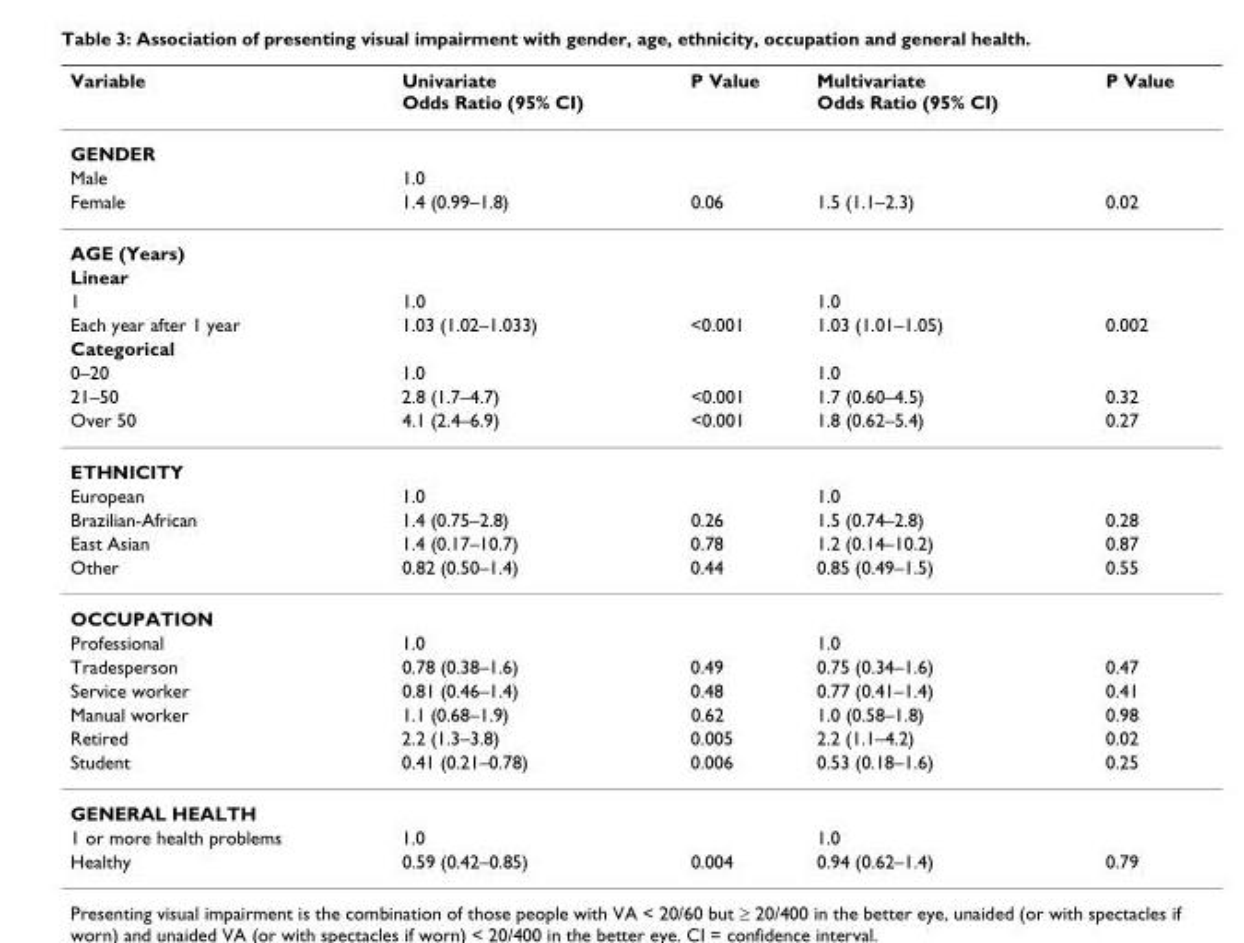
<table><thead><tr><td>Variable</td><td>Univariate Odds Ratio (95% CI)</td><td>P Value</td><td>Multivariate Odds Ratio (95% CI)</td><td>P Value</td></tr></thead><tbody><tr><td colspan="5">GENDER</td></tr><tr><td>Male</td><td>1.0</td><td></td><td></td><td></td></tr><tr><td>Female</td><td>1.4 (0.99–1.8)</td><td>0.06</td><td>1.5 (1.1–2.3)</td><td>0.02</td></tr><tr><td colspan="5">AGE (Years)</td></tr><tr><td colspan="5">Linear</td></tr><tr><td>1</td><td>1.0</td><td></td><td>1.0</td><td></td></tr><tr><td>Each year after 1 year</td><td>1.03 (1.02–1.033)</td><td>&lt;0.001</td><td>1.03 (1.01–1.05)</td><td>0.002</td></tr><tr><td colspan="5">Categorical</td></tr><tr><td>0–20</td><td>1.0</td><td></td><td>1.0</td><td></td></tr><tr><td>21–50</td><td>2.8 (1.7–4.7)</td><td>&lt;0.001</td><td>1.7 (0.60–4.5)</td><td>0.32</td></tr><tr><td>Over 50</td><td>4.1 (2.4–6.9)</td><td>&lt;0.001</td><td>1.8 (0.62–5.4)</td><td>0.27</td></tr><tr><td colspan="5">ETHNICITY</td></tr><tr><td>European</td><td>1.0</td><td></td><td>1.0</td><td></td></tr><tr><td>Brazilian-African</td><td>1.4 (0.75–2.8)</td><td>0.26</td><td>1.5 (0.74–2.8)</td><td>0.28</td></tr><tr><td>East Asian</td><td>1.4 (0.17–10.7)</td><td>0.78</td><td>1.2 (0.14–10.2)</td><td>0.87</td></tr><tr><td>Other</td><td>0.82 (0.50–1.4)</td><td>0.44</td><td>0.85 (0.49–1.5)</td><td>0.55</td></tr><tr><td colspan="5">OCCUPATION</td></tr><tr><td>Professional</td><td>1.0</td><td></td><td>1.0</td><td></td></tr><tr><td>Tradesperson</td><td>0.78 (0.38–1.6)</td><td>0.49</td><td>0.75 (0.34–1.6)</td><td>0.47</td></tr><tr><td>Service worker</td><td>0.81 (0.46–1.4)</td><td>0.48</td><td>0.77 (0.41–1.4)</td><td>0.41</td></tr><tr><td>Manual worker</td><td>1.1 (0.68–1.9)</td><td>0.62</td><td>1.0 (0.58–1.8)</td><td>0.98</td></tr><tr><td>Retired</td><td>2.2 (1.3–3.8)</td><td>0.005</td><td>2.2 (1.1–4.2)</td><td>0.02</td></tr><tr><td>Student</td><td>0.41 (0.21–0.78)</td><td>0.006</td><td>0.53 (0.18–1.6)</td><td>0.25</td></tr><tr><td colspan="5">GENERAL HEALTH</td></tr><tr><td>1 or more health problems</td><td>1.0</td><td></td><td>1.0</td><td></td></tr><tr><td>Healthy</td><td>0.59 (0.42–0.85)</td><td>0.004</td><td>0.94 (0.62–1.4)</td><td>0.79</td></tr></tbody></table>